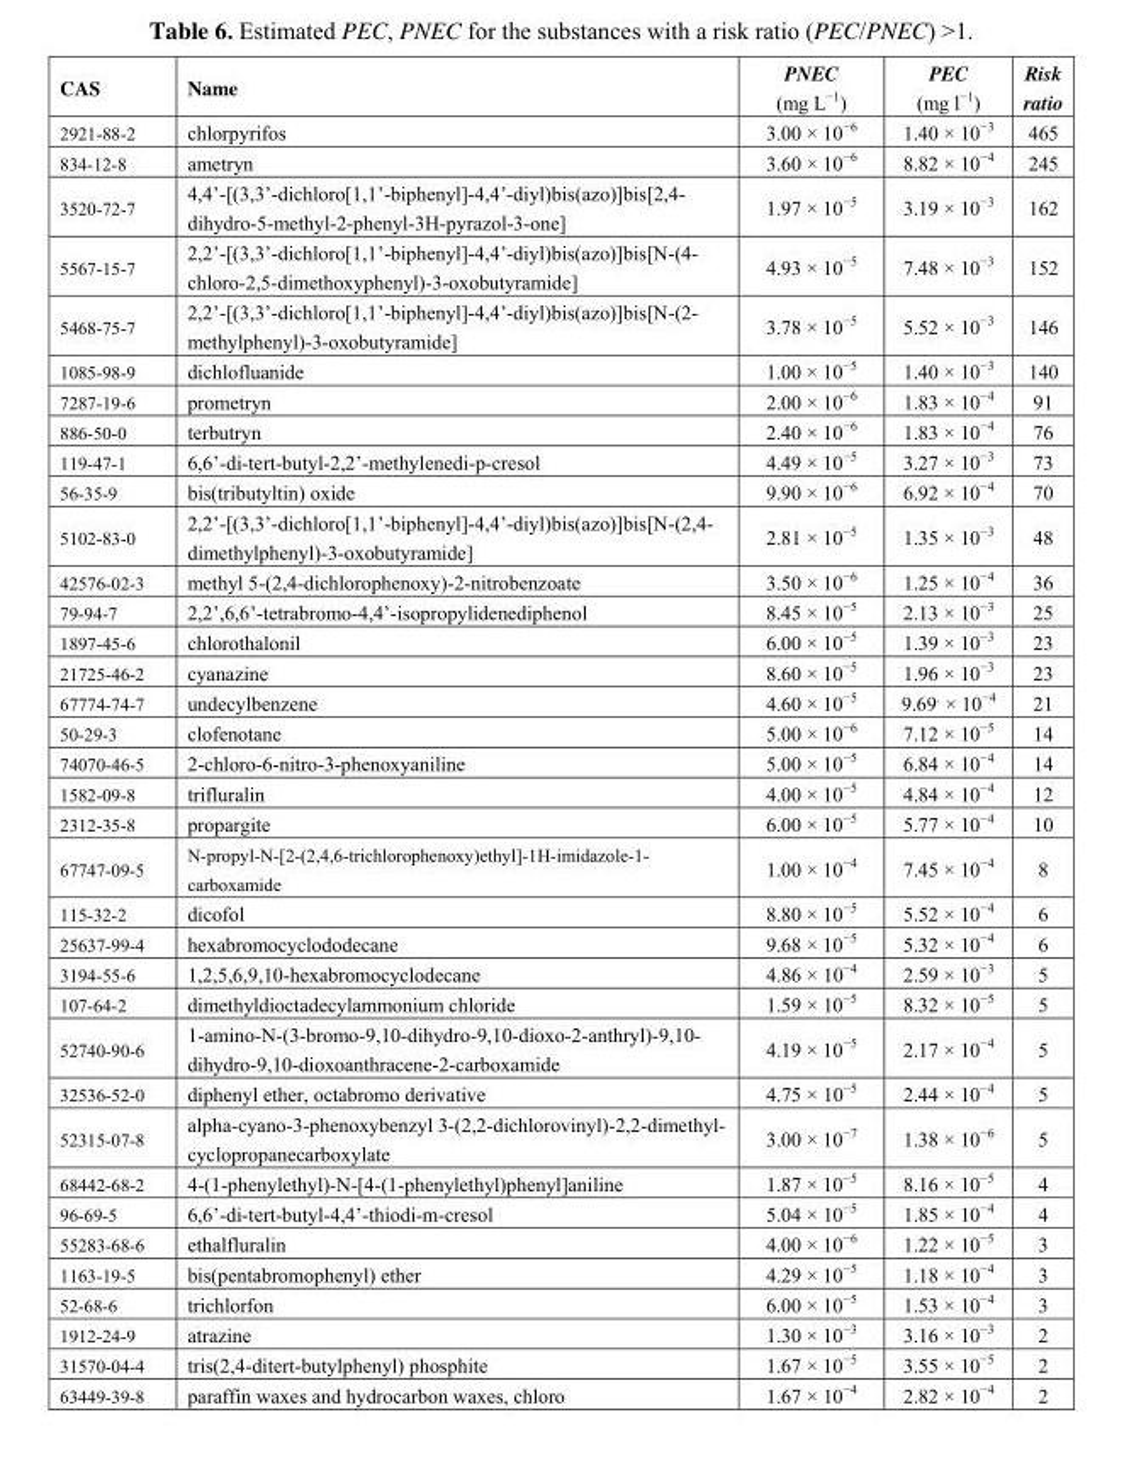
<table><thead><tr><td>CAS</td><td>Name</td><td>PNEC (mg L<sup>−1</sup>)</td><td>PEC (mg l<sup>−1</sup>)</td><td>Risk ratio</td></tr></thead><tbody><tr><td>2921-88-2</td><td>chlorpyrifos</td><td>3.00 × 10<sup>−6</sup></td><td>1.40 × 10<sup>−3</sup></td><td>465</td></tr><tr><td>834-12-8</td><td>ametryn</td><td>3.60 × 10<sup>−6</sup></td><td>8.82 × 10<sup>−4</sup></td><td>245</td></tr><tr><td>3520-72-7</td><td>4,4’-[(3,3’-dichloro[1,1’-biphenyl]-4,4’-diyl)bis(azo)]bis[2,4- dihydro-5-methyl-2-phenyl-3H-pyrazol-3-one]</td><td>1.97 × 10<sup>−5</sup></td><td>3.19 × 10<sup>−3</sup></td><td>162</td></tr><tr><td>5567-15-7</td><td>2,2’-[(3,3’-dichloro[1,1’-biphenyl]-4,4’-diyl)bis(azo)]bis[N-(4- chloro-2,5-dimethoxyphenyl)-3-oxobutyramide]</td><td>4.93 × 10<sup>−5</sup></td><td>7.48 × 10<sup>−3</sup></td><td>152</td></tr><tr><td>5468-75-7</td><td>2,2’-[(3,3’-dichloro[1,1’-biphenyl]-4,4’-diyl)bis(azo)]bis[N-(2- methylphenyl)-3-oxobutyramide]</td><td>3.78 × 10<sup>−5</sup></td><td>5.52 × 10<sup>−3</sup></td><td>146</td></tr><tr><td>1085-98-9</td><td>dichlofluanide</td><td>1.00 × 10<sup>−5</sup></td><td>1.40 × 10<sup>−3</sup></td><td>140</td></tr><tr><td>7287-19-6</td><td>prometryn</td><td>2.00 × 10<sup>−6</sup></td><td>1.83 × 10<sup>−4</sup></td><td>91</td></tr><tr><td>886-50-0</td><td>terbutryn</td><td>2.40 × 10<sup>−6</sup></td><td>1.83 × 10<sup>−4</sup></td><td>76</td></tr><tr><td>119-47-1</td><td>6,6’-di-tert-butyl-2,2’-methylenedi-p-cresol</td><td>4.49 × 10<sup>−5</sup></td><td>3.27 × 10<sup>−3</sup></td><td>73</td></tr><tr><td>56-35-9</td><td>bis(tributyltin) oxide</td><td>9.90 × 10<sup>−6</sup></td><td>6.92 × 10<sup>−4</sup></td><td>70</td></tr><tr><td>5102-83-0</td><td>2,2’-[(3,3’-dichloro[1,1’-biphenyl]-4,4’-diyl)bis(azo)]bis[N-(2,4- dimethylphenyl)-3-oxobutyramide]</td><td>2.81 × 10<sup>−5</sup></td><td>1.35 × 10<sup>−3</sup></td><td>48</td></tr><tr><td>42576-02-3</td><td>methyl 5-(2,4-dichlorophenoxy)-2-nitrobenzoate</td><td>3.50 × 10<sup>−6</sup></td><td>1.25 × 10<sup>−4</sup></td><td>36</td></tr><tr><td>79-94-7</td><td>2,2’,6,6’-tetrabromo-4,4’-isopropylidenediphenol</td><td>8.45 × 10<sup>−5</sup></td><td>2.13 × 10<sup>−3</sup></td><td>25</td></tr><tr><td>1897-45-6</td><td>chlorothalonil</td><td>6.00 × 10<sup>−5</sup></td><td>1.39 × 10<sup>−3</sup></td><td>23</td></tr><tr><td>21725-46-2</td><td>cyanazine</td><td>8.60 × 10<sup>−5</sup></td><td>1.96 × 10<sup>−3</sup></td><td>23</td></tr><tr><td>67774-74-7</td><td>undecylbenzene</td><td>4.60 × 10<sup>−5</sup></td><td>9.69. × 10<sup>−4</sup></td><td>21</td></tr><tr><td>50-29-3</td><td>clofenotane</td><td>5.00 × 10<sup>−6</sup></td><td>7.12 × 10<sup>−5</sup></td><td>14</td></tr><tr><td>74070-46-5</td><td>2-chloro-6-nitro-3-phenoxyaniline</td><td>5.00 × 10<sup>−5</sup></td><td>6.84 × 10<sup>−4</sup></td><td>14</td></tr><tr><td>1582-09-8</td><td>trifluralin</td><td>4.00 × 10<sup>−5</sup></td><td>4.84 × 10<sup>−4</sup></td><td>12</td></tr><tr><td>2312-35-8</td><td>propargite</td><td>6.00 × 10<sup>−5</sup></td><td>5.77 × 10<sup>−4</sup></td><td>10</td></tr><tr><td>67747-09-5</td><td>N-propyl-N-[2-(2,4,6-trichlorophenoxy)ethyl]-1H-imidazole-1- carboxamide</td><td>1.00 × 10<sup>−4</sup></td><td>7.45 × 10<sup>−4</sup></td><td>8</td></tr><tr><td>115-32-2</td><td>dicofol</td><td>8.80 × 10<sup>−5</sup></td><td>5.52 × 10<sup>−4</sup></td><td>6</td></tr><tr><td>25637-99-4</td><td>hexabromocyclododecane</td><td>9.68 × 10<sup>−5</sup></td><td>5.32 × 10<sup>−4</sup></td><td>6</td></tr><tr><td>3194-55-6</td><td>1,2,5,6,9,10-hexabromocyclodecane</td><td>4.86 × 10<sup>−4</sup></td><td>2.59 × 10<sup>−3</sup></td><td>5</td></tr><tr><td>107-64-2</td><td>dimethyldioctadecylammonium chloride</td><td>1.59 × 10<sup>−5</sup></td><td>8.32 × 10<sup>−5</sup></td><td>5</td></tr><tr><td>52740-90-6</td><td>1-amino-N-(3-bromo-9,10-dihydro-9,10-dioxo-2-anthryl)-9,10- dihydro-9,10-dioxoanthracene-2-carboxamide</td><td>4.19 × 10<sup>−5</sup></td><td>2.17 × 10<sup>−4</sup></td><td>5</td></tr><tr><td>32536-52-0</td><td>diphenyl ether, octabromo derivative</td><td>4.75 × 10<sup>−5</sup></td><td>2.44 × 10<sup>−4</sup></td><td>5</td></tr><tr><td>52315-07-8</td><td>alpha-cyano-3-phenoxybenzyl 3-(2,2-dichlorovinyl)-2,2-dimethyl- cyclopropanecarboxylate</td><td>3.00 × 10<sup>−7</sup></td><td>1.38 × 10<sup>−6</sup></td><td>5</td></tr><tr><td>68442-68-2</td><td>4-(1-phenylethyl)-N-[4-(1-phenylethyl)phenyl]aniline</td><td>1.87 × 10<sup>−5</sup></td><td>8.16 × 10<sup>−5</sup></td><td>4</td></tr><tr><td>96-69-5</td><td>6,6’-di-tert-butyl-4,4’-thiodi-m-cresol</td><td>5.04 × 10<sup>−5</sup></td><td>1.85 × 10<sup>−4</sup></td><td>4</td></tr><tr><td>55283-68-6</td><td>ethalfluralin</td><td>4.00 × 10<sup>−6</sup></td><td>1.22 × 10<sup>−5</sup></td><td>3</td></tr><tr><td>1163-19-5</td><td>bis(pentabromophenyl) ether</td><td>4.29 × 10<sup>−5</sup></td><td>1.18 × 10<sup>−4</sup></td><td>3</td></tr><tr><td>52-68-6</td><td>trichlorfon</td><td>6.00 × 10<sup>−5</sup></td><td>1.53 × 10<sup>−4</sup></td><td>3</td></tr><tr><td>1912-24-9</td><td>atrazine</td><td>1.30 × 10<sup>−3</sup></td><td>3.16 × 10<sup>−3</sup></td><td>2</td></tr><tr><td>31570-04-4</td><td>tris(2,4-ditert-butylphenyl) phosphite</td><td>1.67 × 10<sup>−5</sup></td><td>3.55 × 10<sup>−5</sup></td><td>2</td></tr><tr><td>63449-39-8</td><td>paraffin waxes and hydrocarbon waxes, chloro</td><td>1.67 × 10<sup>−4</sup></td><td>2.82 × 10<sup>−4</sup></td><td>2</td></tr></tbody></table>